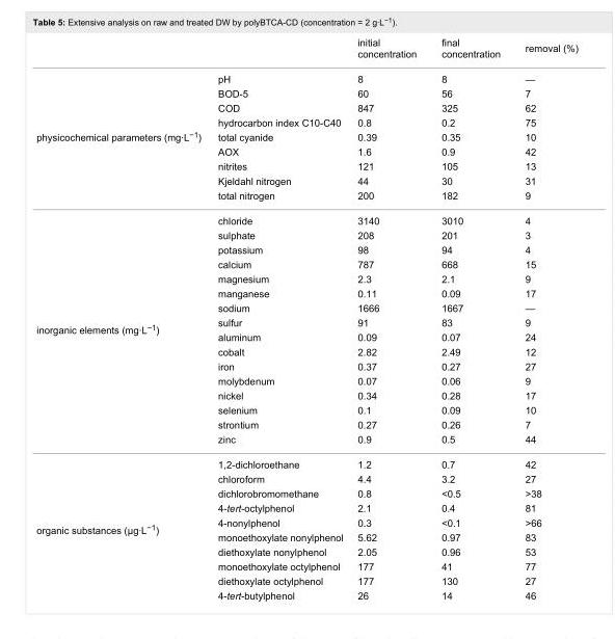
<table><thead><tr><td></td><td></td><td>initial concentration</td><td>final concentration</td><td>removal (%)</td></tr></thead><tbody><tr><td rowspan="9">physicochemical parameters (mg·L<sup>−1</sup>)</td><td>pH</td><td>8</td><td>8</td><td>—</td></tr><tr><td>BOD-5</td><td>60</td><td>56</td><td>7</td></tr><tr><td>COD</td><td>847</td><td>325</td><td>62</td></tr><tr><td>hydrocarbon index C10-C40</td><td>0.8</td><td>0.2</td><td>75</td></tr><tr><td>total cyanide</td><td>0.39</td><td>0.35</td><td>10</td></tr><tr><td>AOX</td><td>1.6</td><td>0.9</td><td>42</td></tr><tr><td>nitrites</td><td>121</td><td>105</td><td>13</td></tr><tr><td>Kjeldahl nitrogen</td><td>44</td><td>30</td><td>31</td></tr><tr><td>total nitrogen</td><td>200</td><td>182</td><td>9</td></tr><tr><td rowspan="16">inorganic elements (mg·L<sup>−1</sup>)</td><td>chloride</td><td>3140</td><td>3010</td><td>4</td></tr><tr><td>sulphate</td><td>208</td><td>201</td><td>3</td></tr><tr><td>potassium</td><td>98</td><td>94</td><td>4</td></tr><tr><td>calcium</td><td>787</td><td>668</td><td>15</td></tr><tr><td>magnesium</td><td>2.3</td><td>2.1</td><td>9</td></tr><tr><td>manganese</td><td>0.11</td><td>0.09</td><td>17</td></tr><tr><td>sodium</td><td>1666</td><td>1667</td><td>—</td></tr><tr><td>sulfur</td><td>91</td><td>83</td><td>9</td></tr><tr><td>aluminum</td><td>0.09</td><td>0.07</td><td>24</td></tr><tr><td>cobalt</td><td>2.82</td><td>2.49</td><td>12</td></tr><tr><td>iron</td><td>0.37</td><td>0.27</td><td>27</td></tr><tr><td>molybdenum</td><td>0.07</td><td>0.06</td><td>9</td></tr><tr><td>nickel</td><td>0.34</td><td>0.28</td><td>17</td></tr><tr><td>selenium</td><td>0.1</td><td>0.09</td><td>10</td></tr><tr><td>strontium</td><td>0.27</td><td>0.26</td><td>7</td></tr><tr><td>zinc</td><td>0.9</td><td>0.5</td><td>44</td></tr><tr><td rowspan="10">organic substances (µg·L<sup>−1</sup>)</td><td>1,2-dichloroethane</td><td>1.2</td><td>0.7</td><td>42</td></tr><tr><td>chloroform</td><td>4.4</td><td>3.2</td><td>27</td></tr><tr><td>dichlorobromomethane</td><td>0.8</td><td>&lt;0.5</td><td>&gt;38</td></tr><tr><td>4-tert-octylphenol</td><td>2.1</td><td>0.4</td><td>81</td></tr><tr><td>4-nonylphenol</td><td>0.3</td><td>&lt;0.1</td><td>&gt;66</td></tr><tr><td>monoethoxylate nonylphenol</td><td>5.62</td><td>0.97</td><td>83</td></tr><tr><td>diethoxylate nonylphenol</td><td>2.05</td><td>0.96</td><td>53</td></tr><tr><td>monoethoxylate octylphenol</td><td>177</td><td>41</td><td>77</td></tr><tr><td>diethoxylate octylphenol</td><td>177</td><td>130</td><td>27</td></tr><tr><td>4-tert-butylphenol</td><td>26</td><td>14</td><td>46</td></tr></tbody></table>